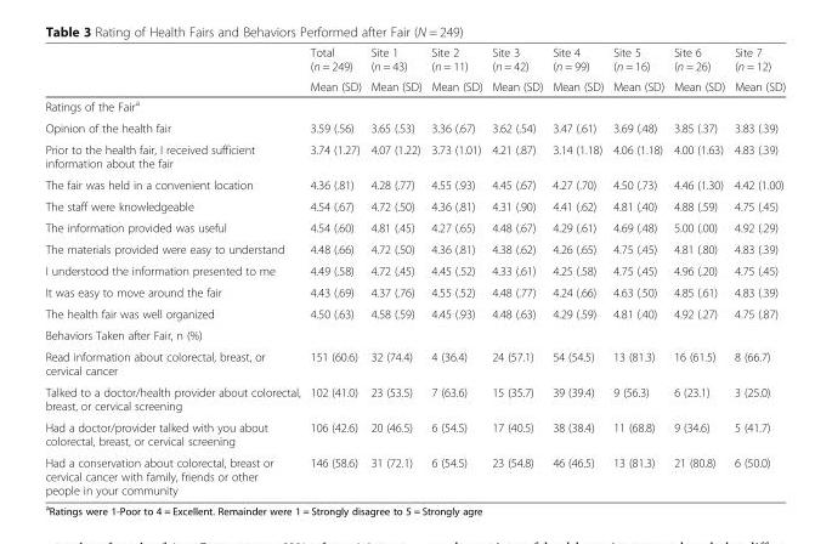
<table><thead><tr><td rowspan="2"></td><td rowspan="2">Total (n = 249) Mean (SD)</td><td rowspan="2">Site 1 (n = 43) Mean (SD)</td><td rowspan="2">Site 2 (n = 11) Mean (SD)</td><td rowspan="2">Site 3 (n = 42) Mean (SD)</td><td rowspan="2">Site 4 (n = 99) Mean (SD)</td><td rowspan="2">Site 5 (n = 16) Mean (SD)</td><td rowspan="2">Site 6 (n = 26) Mean (SD)</td><td rowspan="2">Site 7 (n = 12) Mean (SD)</td></tr><tr></tr></thead><tbody><tr><td colspan="9">Ratings of the Fair<sup>a</sup></td></tr><tr><td>Opinion of the health fair</td><td>3.59 (.56)</td><td>3.65 (.53)</td><td>3.36 (.67)</td><td>3.62 (.54)</td><td>3.47 (.61)</td><td>3.69 (.48)</td><td>3.85 (.37)</td><td>3.83 (.39)</td></tr><tr><td>Prior to the health fair, I received sufficient information about the fair</td><td>3.74 (1.27)</td><td>4.07 (1.22)</td><td>3.73 (1.01)</td><td>4.21 (.87)</td><td>3.14 (1.18)</td><td>4.06 (1.18)</td><td>4.00 (1.63)</td><td>4.83 (.39)</td></tr><tr><td>The fair was held in a convenient location</td><td>4.36 (.81)</td><td>4.28 (.77)</td><td>4.55 (.93)</td><td>4.45 (.67)</td><td>4.27 (.70)</td><td>4.50 (.73)</td><td>4.46 (1.30)</td><td>4.42 (1.00)</td></tr><tr><td>The staff were knowledgeable</td><td>4.54 (.67)</td><td>4.72 (.50)</td><td>4.36 (.81)</td><td>4.31 (.90)</td><td>4.41 (.62)</td><td>4.81 (.40)</td><td>4.88 (.59)</td><td>4.75 (.45)</td></tr><tr><td>The information provided was useful</td><td>4.54 (.60)</td><td>4.81 (.45)</td><td>4.27 (.65)</td><td>4.48 (.67)</td><td>4.29 (.61)</td><td>4.69 (.48)</td><td>5.00 (.00)</td><td>4.92 (.29)</td></tr><tr><td>The materials provided were easy to understand</td><td>4.48 (.66)</td><td>4.72 (.50)</td><td>4.36 (.81)</td><td>4.38 (.62)</td><td>4.26 (.65)</td><td>4.75 (.45)</td><td>4.81 (.80)</td><td>4.83 (.39)</td></tr><tr><td>I understood the information presented to me</td><td>4.49 (.58)</td><td>4.72 (.45)</td><td>4.45 (.52)</td><td>4.33 (.61)</td><td>4.25 (.58)</td><td>4.75 (.45)</td><td>4.96 (.20)</td><td>4.75 (.45)</td></tr><tr><td>It was easy to move around the fair</td><td>4.43 (.69)</td><td>4.37 (.76)</td><td>4.55 (.52)</td><td>4.48 (.77)</td><td>4.24 (.66)</td><td>4.63 (.50)</td><td>4.85 (.61)</td><td>4.83 (.39)</td></tr><tr><td>The health fair was well organized</td><td>4.50 (.63)</td><td>4.58 (.59)</td><td>4.45 (.93)</td><td>4.48 (.63)</td><td>4.29 (.59)</td><td>4.81 (.40)</td><td>4.92 (.27)</td><td>4.75 (.87)</td></tr><tr><td colspan="9">Behaviors Taken after Fair, n (%)</td></tr><tr><td>Read information about colorectal, breast, or cervical cancer</td><td>151 (60.6)</td><td>32 (74.4)</td><td>4 (36.4)</td><td>24 (57.1)</td><td>54 (54.5)</td><td>13 (81.3)</td><td>16 (61.5)</td><td>8 (66.7)</td></tr><tr><td>Talked to a doctor/health provider about colorectal, breast, or cervical screening</td><td>102 (41.0)</td><td>23 (53.5)</td><td>7 (63.6)</td><td>15 (35.7)</td><td>39 (39.4)</td><td>9 (56.3)</td><td>6 (23.1)</td><td>3 (25.0)</td></tr><tr><td>Had a doctor/provider talked with you about colorectal, breast, or cervical screening</td><td>106 (42.6)</td><td>20 (46.5)</td><td>6 (54.5)</td><td>17 (40.5)</td><td>38 (38.4)</td><td>11 (68.8)</td><td>9 (34.6)</td><td>5 (41.7)</td></tr><tr><td>Had a conservation about colorectal, breast or cervical cancer with family, friends or other people in your community</td><td>146 (58.6)</td><td>31 (72.1)</td><td>6 (54.5)</td><td>23 (54.8)</td><td>46 (46.5)</td><td>13 (81.3)</td><td>21 (80.8)</td><td>6 (50.0)</td></tr></tbody></table>